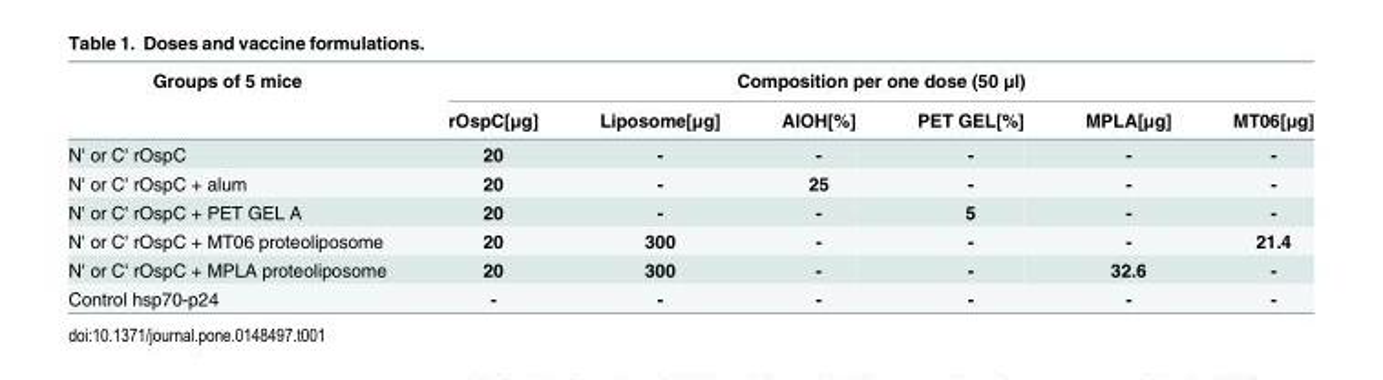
<table><thead><tr><td rowspan="2">Groups of 5 mice</td><td colspan="6">Composition per one dose (50 μl)</td></tr><tr><td>rOspC[μg]</td><td>Liposome[μg]</td><td>AlOH[%]</td><td>PET GEL[%]</td><td>MPLA[μg]</td><td>MT06[μg]</td></tr></thead><tbody><tr><td>N&#x27; or C&#x27; rOspC</td><td>20</td><td>-</td><td>-</td><td>-</td><td>-</td><td>-</td></tr><tr><td>N&#x27; or C&#x27; rOspC + alum</td><td>20</td><td>-</td><td>25</td><td>-</td><td>-</td><td>-</td></tr><tr><td>N&#x27; or C&#x27; rOspC + PET GEL A</td><td>20</td><td>-</td><td>-</td><td>5</td><td>-</td><td>-</td></tr><tr><td>N&#x27; or C&#x27; rOspC + MT06 proteoliposome</td><td>20</td><td>300</td><td>-</td><td>-</td><td>-</td><td>21.4</td></tr><tr><td>N&#x27; or C&#x27; rOspC + MPLA proteoliposome</td><td>20</td><td>300</td><td>-</td><td>-</td><td>32.6</td><td>-</td></tr><tr><td>Control hsp70-p24</td><td>-</td><td>-</td><td>-</td><td>-</td><td>-</td><td>-</td></tr></tbody></table>